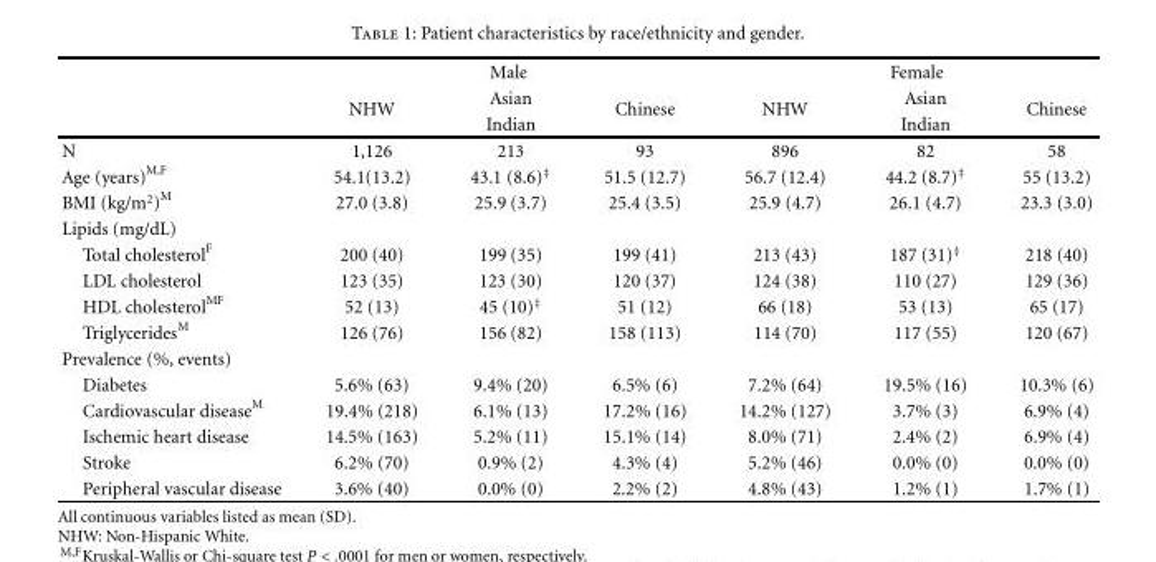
<table><thead><tr><td rowspan="3"></td><td colspan="3">Male</td><td colspan="3">Female</td></tr><tr><td rowspan="2">NHW</td><td rowspan="2">Asian Indian</td><td rowspan="2">Chinese</td><td rowspan="2">NHW</td><td rowspan="2">Asian Indian</td><td rowspan="2">Chinese</td></tr><tr></tr></thead><tbody><tr><td>N</td><td>1,126</td><td>213</td><td>93</td><td>896</td><td>82</td><td>58</td></tr><tr><td>Age (years)<sup>M,F</sup></td><td>54.1(13.2)</td><td>43.1 (8.6)<sup>‡</sup></td><td>51.5 (12.7)</td><td>56.7 (12.4)</td><td>44.2 (8.7)<sup>‡</sup></td><td>55 (13.2)</td></tr><tr><td>BMI (kg/m<sup>2</sup>)<sup>M</sup></td><td>27.0 (3.8)</td><td>25.9 (3.7)</td><td>25.4 (3.5)</td><td>25.9 (4.7)</td><td>26.1 (4.7)</td><td>23.3 (3.0)</td></tr><tr><td colspan="7">Lipids (mg/dL)</td></tr><tr><td>Total cholesterol<sup>F</sup></td><td>200 (40)</td><td>199 (35)</td><td>199 (41)</td><td>213 (43)</td><td>187 (31)<sup>‡</sup></td><td>218 (40)</td></tr><tr><td>LDL cholesterol</td><td>123 (35)</td><td>123 (30)</td><td>120 (37)</td><td>124 (38)</td><td>110 (27)</td><td>129 (36)</td></tr><tr><td>HDL cholesterol<sup>MF</sup></td><td>52 (13)</td><td>45 (10)<sup>‡</sup></td><td>51 (12)</td><td>66 (18)</td><td>53 (13)</td><td>65 (17)</td></tr><tr><td>Triglycerides<sup>M</sup></td><td>126 (76)</td><td>156 (82)</td><td>158 (113)</td><td>114 (70)</td><td>117 (55)</td><td>120 (67)</td></tr><tr><td colspan="7">Prevalence (%, events)</td></tr><tr><td>Diabetes</td><td>5.6% (63)</td><td>9.4% (20)</td><td>6.5% (6)</td><td>7.2% (64)</td><td>19.5% (16)</td><td>10.3% (6)</td></tr><tr><td>Cardiovascular disease<sup>M</sup></td><td>19.4% (218)</td><td>6.1% (13)</td><td>17.2% (16)</td><td>14.2% (127)</td><td>3.7% (3)</td><td>6.9% (4)</td></tr><tr><td>Ischemic heart disease</td><td>14.5% (163)</td><td>5.2% (11)</td><td>15.1% (14)</td><td>8.0% (71)</td><td>2.4% (2)</td><td>6.9% (4)</td></tr><tr><td>Stroke</td><td>6.2% (70)</td><td>0.9% (2)</td><td>4.3% (4)</td><td>5.2% (46)</td><td>0.0% (0)</td><td>0.0% (0)</td></tr><tr><td>Peripheral vascular disease</td><td>3.6% (40)</td><td>0.0% (0)</td><td>2.2% (2)</td><td>4.8% (43)</td><td>1.2% (1)</td><td>1.7% (1)</td></tr></tbody></table>